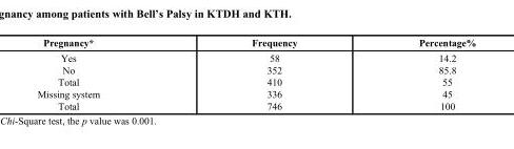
<table><thead><tr><td>Pregnancy*</td><td>Frequency</td><td>Percentage%</td></tr></thead><tbody><tr><td>Yes No Total Missing system Total</td><td>58 352 410 336 746</td><td>14.2 85.8 55 45 100</td></tr></tbody></table>